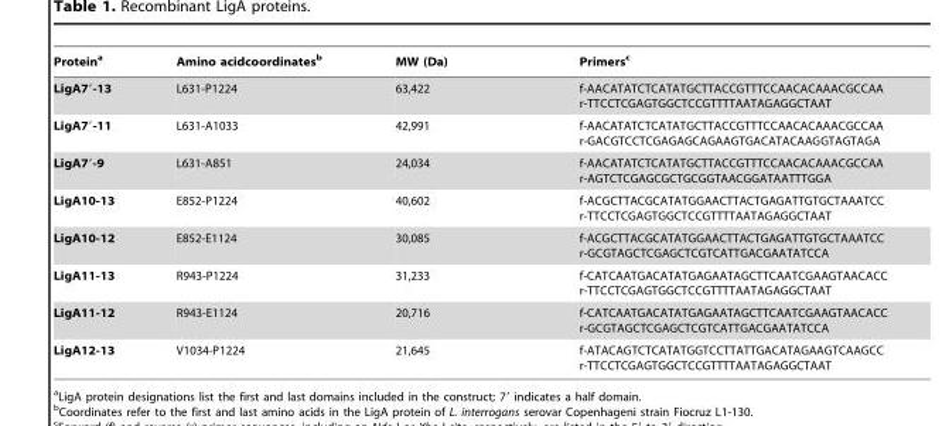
<table><thead><tr><td>Protein<sup>a</sup></td><td>Amino acidcoordinates<sup>b</sup></td><td>MW (Da)</td><td>Primers<sup>c</sup></td></tr></thead><tbody><tr><td>LigA7′-13</td><td>L631-P1224</td><td>63,422</td><td>f-AACATATCTCATATGCTTACCGTTTCCAACACAAACGCCAA r-TTCCTCGAGTGGCTCCGTTTTAATAGAGGCTAAT</td></tr><tr><td>LigA7′-11</td><td>L631-A1033</td><td>42,991</td><td>f-AACATATCTCATATGCTTACCGTTTCCAACACAAACGCCAA r-GACGTCCTCGAGAGCAGAAGTGACATACAAGGTAGTAGA</td></tr><tr><td>LigA7′-9</td><td>L631-A851</td><td>24,034</td><td>f-AACATATCTCATATGCTTACCGTTTCCAACACAAACGCCAA r-AGTCTCGAGCGCTGCGGTAACGGATAATTTGGA</td></tr><tr><td>LigA10-13</td><td>E852-P1224</td><td>40,602</td><td>f-ACGCTTACGCATATGGAACTTACTGAGATTGTGCTAAATCC r-TTCCTCGAGTGGCTCCGTTTTAATAGAGGCTAAT</td></tr><tr><td>LigA10-12</td><td>E852-E1124</td><td>30,085</td><td>f-ACGCTTACGCATATGGAACTTACTGAGATTGTGCTAAATCC r-GCGTAGCTCGAGCTCGTCATTGACGAATATCCA</td></tr><tr><td>LigA11-13</td><td>R943-P1224</td><td>31,233</td><td>f-CATCAATGACATATGAGAATAGCTTCAATCGAAGTAACACC r-TTCCTCGAGTGGCTCCGTTTTAATAGAGGCTAAT</td></tr><tr><td>LigA11-12</td><td>R943-E1124</td><td>20,716</td><td>f-CATCAATGACATATGAGAATAGCTTCAATCGAAGTAACACC r-GCGTAGCTCGAGCTCGTCATTGACGAATATCCA</td></tr><tr><td>LigA12-13</td><td>V1034-P1224</td><td>21,645</td><td>f-ATACAGTCTCATATGGTCCTTATTGACATAGAAGTCAAGCC r-TTCCTCGAGTGGCTCCGTTTTAATAGAGGCTAAT</td></tr></tbody></table>